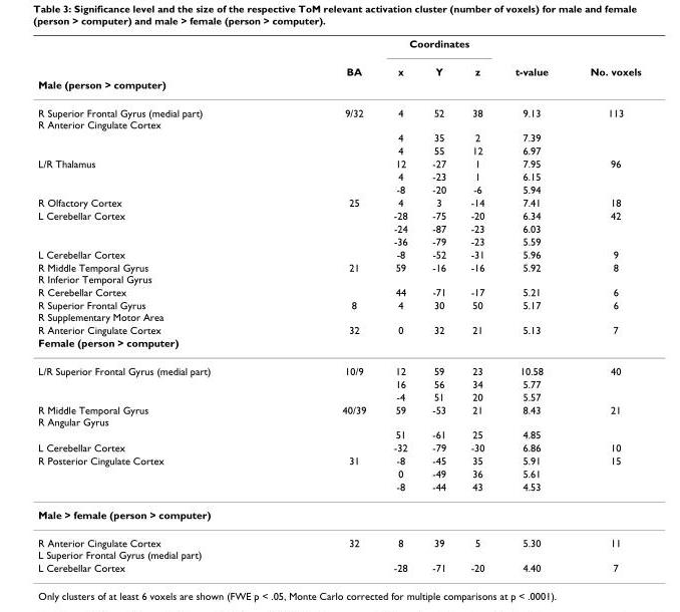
<table><thead><tr><td rowspan="3">Male (person &gt; computer)</td><td rowspan="3">BA</td><td colspan="3">Coordinates</td><td rowspan="3">t-value</td><td rowspan="3">No. voxels</td></tr><tr><td rowspan="2">x</td><td rowspan="2">Y</td><td rowspan="2">z</td></tr><tr></tr></thead><tbody><tr><td rowspan="3">R Superior Frontal Gyrus (medial part) R Anterior Cingulate Cortex</td><td>9/32</td><td>4</td><td>52</td><td>38</td><td>9.13</td><td>113</td></tr><tr><td></td><td>4</td><td>35</td><td>2</td><td>7.39</td><td></td></tr><tr><td></td><td>4</td><td>55</td><td>12</td><td>6.97</td><td></td></tr><tr><td rowspan="3">L/R Thalamus</td><td></td><td>12</td><td>-27</td><td>1</td><td>7.95</td><td>96</td></tr><tr><td></td><td>4</td><td>-23</td><td>1</td><td>6.15</td><td></td></tr><tr><td></td><td>-8</td><td>-20</td><td>-6</td><td>5.94</td><td></td></tr><tr><td>R Olfactory Cortex</td><td>25</td><td>4</td><td>3</td><td>-14</td><td>7.41</td><td>18</td></tr><tr><td rowspan="3">L Cerebellar Cortex</td><td></td><td>-28</td><td>-75</td><td>-20</td><td>6.34</td><td>42</td></tr><tr><td></td><td>-24</td><td>-87</td><td>-23</td><td>6.03</td><td></td></tr><tr><td></td><td>-36</td><td>-79</td><td>-23</td><td>5.59</td><td></td></tr><tr><td>L Cerebellar Cortex</td><td></td><td>-8</td><td>-52</td><td>-31</td><td>5.96</td><td>9</td></tr><tr><td>R Middle Temporal Gyrus R Inferior Temporal Gyrus</td><td>21</td><td>59</td><td>-16</td><td>-16</td><td>5.92</td><td>8</td></tr><tr><td>R Cerebellar Cortex</td><td></td><td>44</td><td>-71</td><td>-17</td><td>5.21</td><td>6</td></tr><tr><td>R Superior Frontal Gyrus R Supplementary Motor Area</td><td>8</td><td>4</td><td>30</td><td>50</td><td>5.17</td><td>6</td></tr><tr><td>R Anterior Cingulate Cortex</td><td>32</td><td>0</td><td>32</td><td>21</td><td>5.13</td><td>7</td></tr><tr><td colspan="7">Female (person &gt; computer)</td></tr><tr><td rowspan="3">L/R Superior Frontal Gyrus (medial part)</td><td>10/9</td><td>12</td><td>59</td><td>23</td><td>10.58</td><td>40</td></tr><tr><td></td><td>16</td><td>56</td><td>34</td><td>5.77</td><td></td></tr><tr><td></td><td>-4</td><td>51</td><td>20</td><td>5.57</td><td></td></tr><tr><td rowspan="2">R Middle Temporal Gyrus R Angular Gyrus</td><td>40/39</td><td>59</td><td>-53</td><td>21</td><td>8.43</td><td>21</td></tr><tr><td></td><td>51</td><td>-61</td><td>25</td><td>4.85</td><td></td></tr><tr><td>L Cerebellar Cortex</td><td></td><td>-32</td><td>-79</td><td>-30</td><td>6.86</td><td>10</td></tr><tr><td rowspan="3">R Posterior Cingulate Cortex</td><td>31</td><td>-8</td><td>-45</td><td>35</td><td>5.91</td><td>15</td></tr><tr><td></td><td>0</td><td>-49</td><td>36</td><td>5.61</td><td></td></tr><tr><td></td><td>-8</td><td>-44</td><td>43</td><td>4.53</td><td></td></tr><tr><td colspan="7">Male &gt; female (person &gt; computer)</td></tr><tr><td>R Anterior Cingulate Cortex L Superior Frontal Gyrus (medial part)</td><td>32</td><td>8</td><td>39</td><td>5</td><td>5.30</td><td>11</td></tr><tr><td>L Cerebellar Cortex</td><td></td><td>-28</td><td>-71</td><td>-20</td><td>4.40</td><td>7</td></tr></tbody></table>